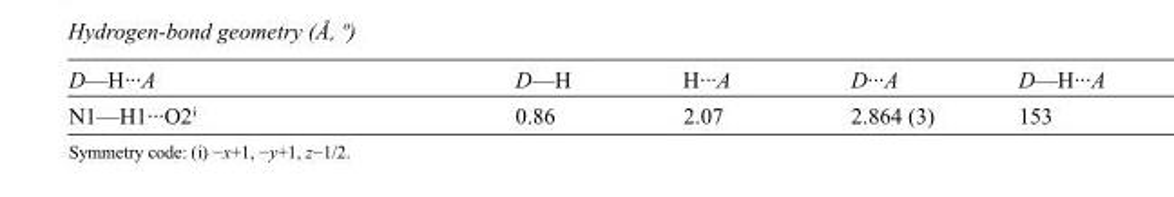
<table><tbody><tr><td>D—H···A</td><td>D—H</td><td>H···A</td><td>D···A</td><td>D—H···A</td></tr><tr><td>N1—H1···O2<sup>i</sup></td><td>0.86</td><td>2.07</td><td>2.864 (3)</td><td>153</td></tr></tbody></table>